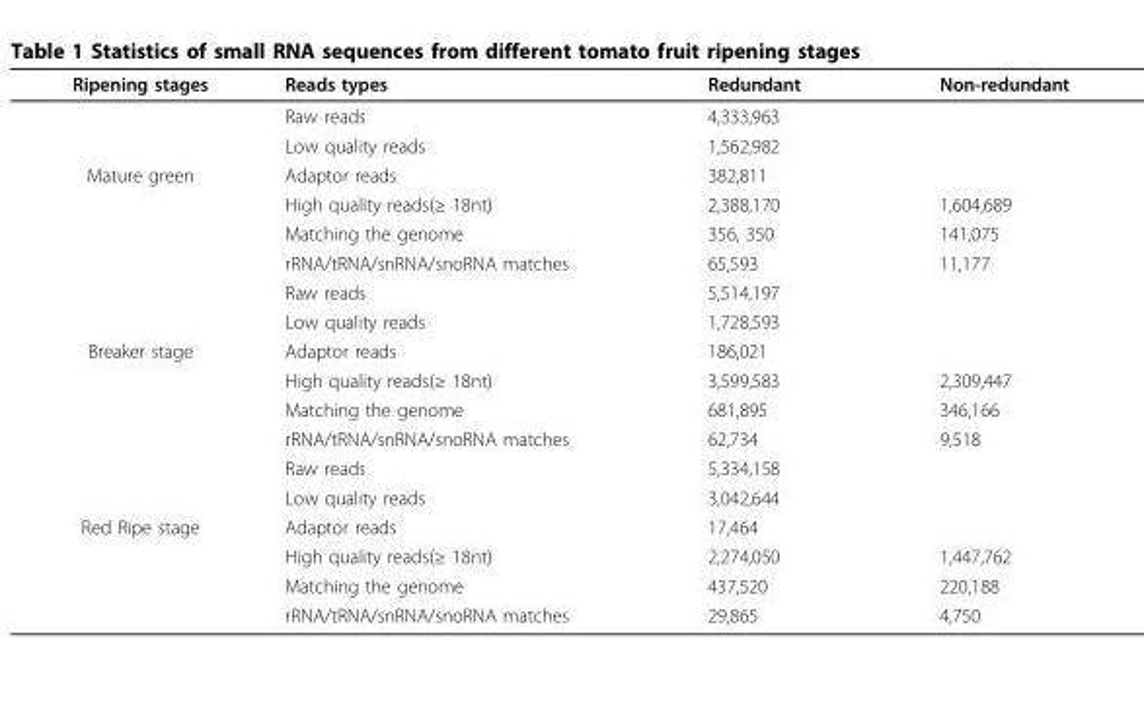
<table><thead><tr><td>Ripening stages</td><td>Reads types</td><td>Redundant</td><td>Non-redundant</td></tr></thead><tbody><tr><td></td><td>Raw reads</td><td>4,333,963</td><td></td></tr><tr><td></td><td>Low quality reads</td><td>1,562,982</td><td></td></tr><tr><td rowspan="6">Mature green</td><td>Adaptor reads</td><td>382,811</td><td></td></tr><tr><td>High quality reads(≥ 18nt)</td><td>2,388,170</td><td>1,604,689</td></tr><tr><td>Matching the genome</td><td>356, 350</td><td>141,075</td></tr><tr><td>rRNA/tRNA/snRNA/snoRNA matches</td><td>65,593</td><td>11,177</td></tr><tr><td>Raw reads</td><td>5,514,197</td><td></td></tr><tr><td>Low quality reads</td><td>1,728,593</td><td></td></tr><tr><td rowspan="6">Breaker stage</td><td>Adaptor reads</td><td>186,021</td><td></td></tr><tr><td>High quality reads(≥ 18nt)</td><td>3,599,583</td><td>2,309,447</td></tr><tr><td>Matching the genome</td><td>681,895</td><td>346,166</td></tr><tr><td>rRNA/tRNA/snRNA/snoRNA matches</td><td>62,734</td><td>9,518</td></tr><tr><td>Raw reads</td><td>5,334,158</td><td></td></tr><tr><td>Low quality reads</td><td>3,042,644</td><td></td></tr><tr><td rowspan="4">Red Ripe stage</td><td>Adaptor reads</td><td>17,464</td><td></td></tr><tr><td>High quality reads(≥ 18nt)</td><td>2,274,050</td><td>1,447,762</td></tr><tr><td>Matching the genome</td><td>437,520</td><td>220,188</td></tr><tr><td>rRNA/tRNA/snRNA/snoRNA matches</td><td>29,865</td><td>4,750</td></tr></tbody></table>